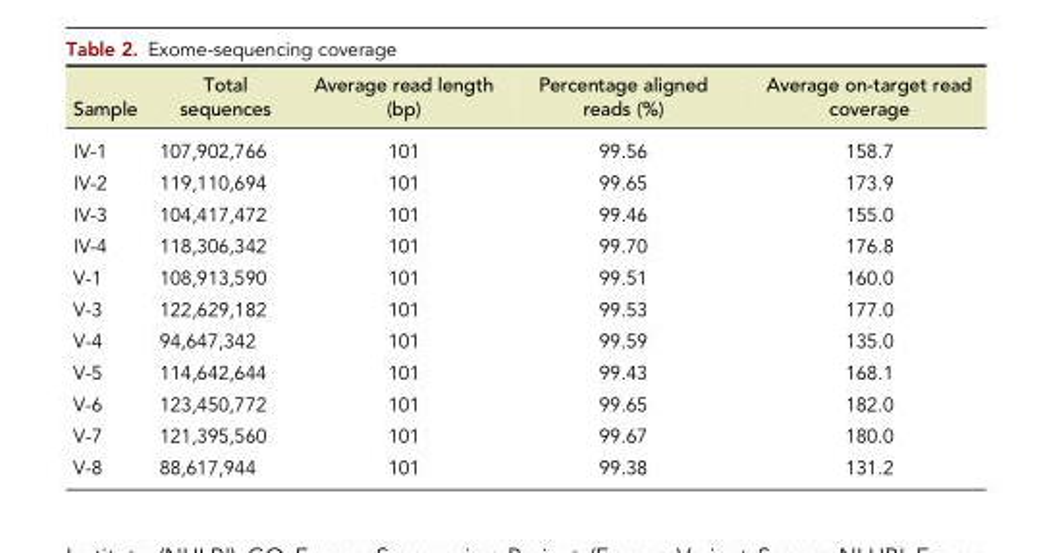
<table><thead><tr><td>Sample</td><td>Total sequences</td><td>Average read length (bp)</td><td>Percentage aligned reads (%)</td><td>Average on-target read coverage</td></tr></thead><tbody><tr><td>IV-1</td><td>107,902,766</td><td>101</td><td>99.56</td><td>158.7</td></tr><tr><td>IV-2</td><td>119,110,694</td><td>101</td><td>99.65</td><td>173.9</td></tr><tr><td>IV-3</td><td>104,417,472</td><td>101</td><td>99.46</td><td>155.0</td></tr><tr><td>IV-4</td><td>118,306,342</td><td>101</td><td>99.70</td><td>176.8</td></tr><tr><td>V-1</td><td>108,913,590</td><td>101</td><td>99.51</td><td>160.0</td></tr><tr><td>V-3</td><td>122,629,182</td><td>101</td><td>99.53</td><td>177.0</td></tr><tr><td>V-4</td><td>94,647,342</td><td>101</td><td>99.59</td><td>135.0</td></tr><tr><td>V-5</td><td>114,642,644</td><td>101</td><td>99.43</td><td>168.1</td></tr><tr><td>V-6</td><td>123,450,772</td><td>101</td><td>99.65</td><td>182.0</td></tr><tr><td>V-7</td><td>121,395,560</td><td>101</td><td>99.67</td><td>180.0</td></tr><tr><td>V-8</td><td>88,617,944</td><td>101</td><td>99.38</td><td>131.2</td></tr></tbody></table>